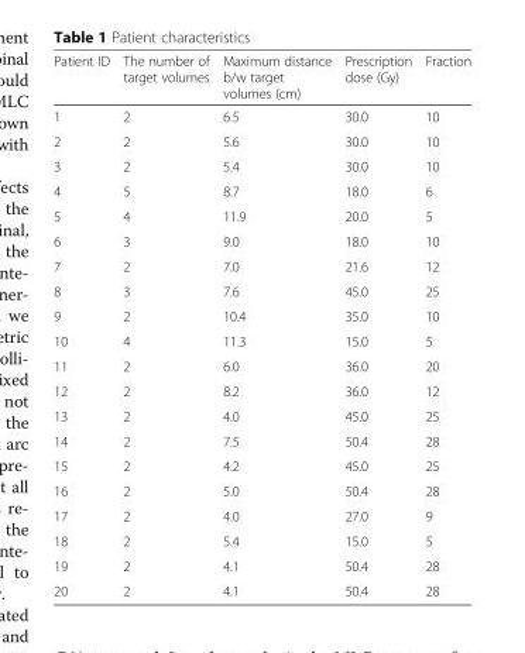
<table><thead><tr><td>Patient ID</td><td>The number of target volumes</td><td>Maximum distance b/w target volumes (cm)</td><td>Prescription dose (Gy)</td><td>Fraction</td></tr></thead><tbody><tr><td>1</td><td>2</td><td>6.5</td><td>30.0</td><td>10</td></tr><tr><td>2</td><td>2</td><td>5.6</td><td>30.0</td><td>10</td></tr><tr><td>3</td><td>2</td><td>5.4</td><td>30.0</td><td>10</td></tr><tr><td>4</td><td>5</td><td>8.7</td><td>18.0</td><td>6</td></tr><tr><td>5</td><td>4</td><td>11.9</td><td>20.0</td><td>5</td></tr><tr><td>6</td><td>3</td><td>9.0</td><td>18.0</td><td>10</td></tr><tr><td>7</td><td>2</td><td>7.0</td><td>21.6</td><td>12</td></tr><tr><td>8</td><td>3</td><td>7.6</td><td>45.0</td><td>25</td></tr><tr><td>9</td><td>2</td><td>10.4</td><td>35.0</td><td>10</td></tr><tr><td>10</td><td>4</td><td>11.3</td><td>15.0</td><td>5</td></tr><tr><td>11</td><td>2</td><td>6.0</td><td>36.0</td><td>20</td></tr><tr><td>12</td><td>2</td><td>8.2</td><td>36.0</td><td>12</td></tr><tr><td>13</td><td>2</td><td>4.0</td><td>45.0</td><td>25</td></tr><tr><td>14</td><td>2</td><td>7.5</td><td>50.4</td><td>28</td></tr><tr><td>15</td><td>2</td><td>4.2</td><td>45.0</td><td>25</td></tr><tr><td>16</td><td>2</td><td>5.0</td><td>50.4</td><td>28</td></tr><tr><td>17</td><td>2</td><td>4.0</td><td>27.0</td><td>9</td></tr><tr><td>18</td><td>2</td><td>5.4</td><td>15.0</td><td>5</td></tr><tr><td>19</td><td>2</td><td>4.1</td><td>50.4</td><td>28</td></tr><tr><td>20</td><td>2</td><td>4.1</td><td>50.4</td><td>28</td></tr></tbody></table>